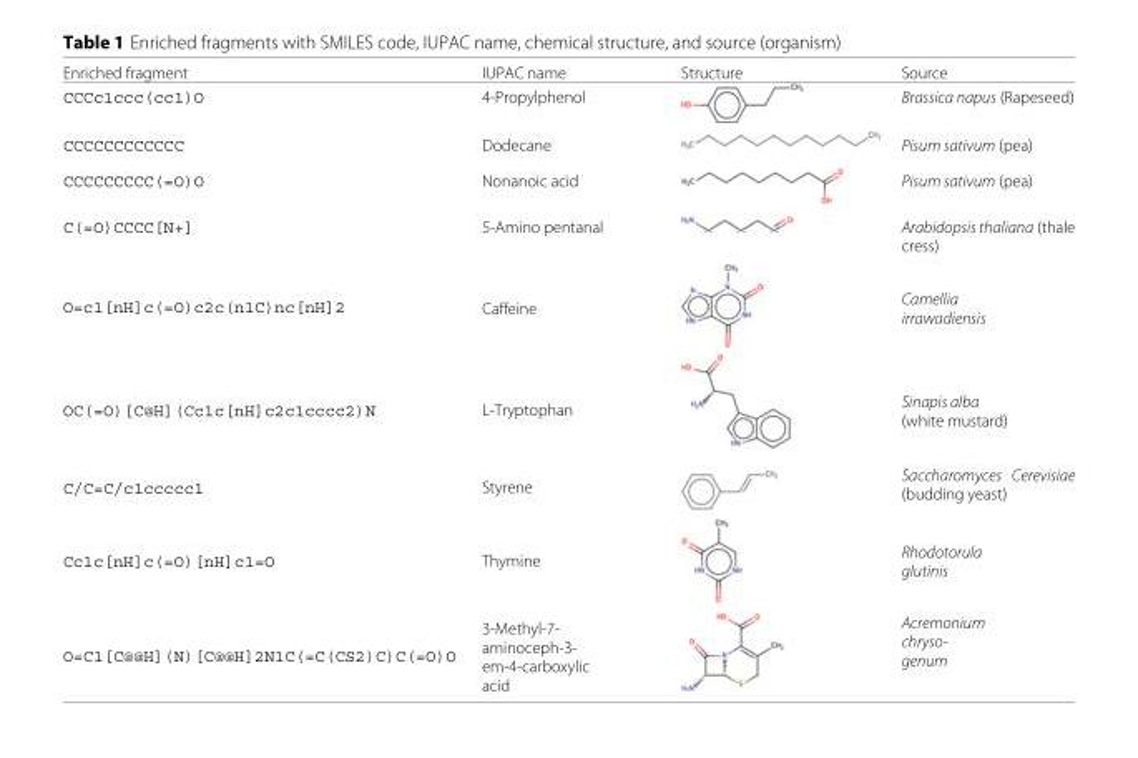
<table><thead><tr><td>Enriched fragment</td><td>IUPAC name</td><td>Structure</td><td>Source</td></tr></thead><tbody><tr><td>CCCc1ccc(cc1)O</td><td>4-Propylphenol</td><td></td><td>Brassica napus (Rapeseed)</td></tr><tr><td>CCCCCCCCCCCC</td><td>Dodecane</td><td></td><td>Pisum sativum (pea)</td></tr><tr><td>CCCCCCCCC(=O)O</td><td>Nonanoic acid</td><td></td><td>Pisum sativum (pea)</td></tr><tr><td>C(=O)CCCC[N+]</td><td>5-Amino pentanal</td><td></td><td>Arabidopsis thaliana (thale cress)</td></tr><tr><td>O=c1[nH]c(=O)c2c(n1C)nc[nH]2</td><td>Caffeine</td><td></td><td>Camellia irrawadiensis</td></tr><tr><td>OC(=O)[C@H](Cc1c[nH]c2c1cccc2)N</td><td>L-Tryptophan</td><td></td><td>Sinapis alba (white mustard)</td></tr><tr><td>C/C=C/c1ccccc1</td><td>Styrene</td><td></td><td>Saccharomyces Cerevisiae (budding yeast)</td></tr><tr><td>Cc1c[nH]c(=O)[nH]c1=O</td><td>Thymine</td><td></td><td>Rhodotorula glutinis</td></tr><tr><td>O=C1[C@@H](N)[C@@H]2N1C(=C(CS2)C)C(=O)O</td><td>3-Methyl-7- aminoceph-3- em-4-carboxylic acid</td><td></td><td>Acremonium chryso- genum</td></tr></tbody></table>